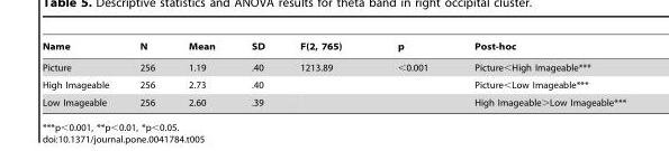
<table><thead><tr><td>Name</td><td>N</td><td>Mean</td><td>SD</td><td>F(2, 765)</td><td>p</td><td>Post-hoc</td></tr></thead><tbody><tr><td>Picture</td><td>256</td><td>1.19</td><td>.40</td><td>1213.89</td><td>&lt;0.001</td><td>Picture&lt;High Imageable***</td></tr><tr><td>High Imageable</td><td>256</td><td>2.73</td><td>.40</td><td></td><td></td><td>Picture&lt;Low Imageable***</td></tr><tr><td>Low Imageable</td><td>256</td><td>2.60</td><td>.39</td><td></td><td></td><td>High Imageable&gt;Low Imageable***</td></tr></tbody></table>